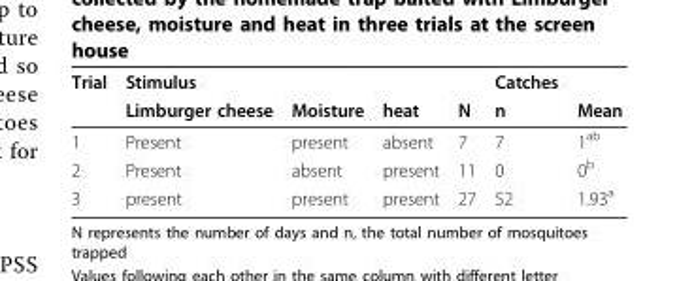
<table><thead><tr><td rowspan="2">Trial</td><td rowspan="2">Stimulus Limburger cheese</td><td rowspan="2">Moisture</td><td rowspan="2">heat</td><td rowspan="2">N</td><td rowspan="2">Catches n</td><td rowspan="2">Mean</td></tr><tr></tr></thead><tbody><tr><td>1</td><td>Present</td><td>present</td><td>absent</td><td>7</td><td>7</td><td>1<sup>ab</sup></td></tr><tr><td>2</td><td>Present</td><td>absent</td><td>present</td><td>11</td><td>0</td><td>0<sup>b</sup></td></tr><tr><td>3</td><td>present</td><td>present</td><td>present</td><td>27</td><td>52</td><td>1.93<sup>a</sup></td></tr></tbody></table>